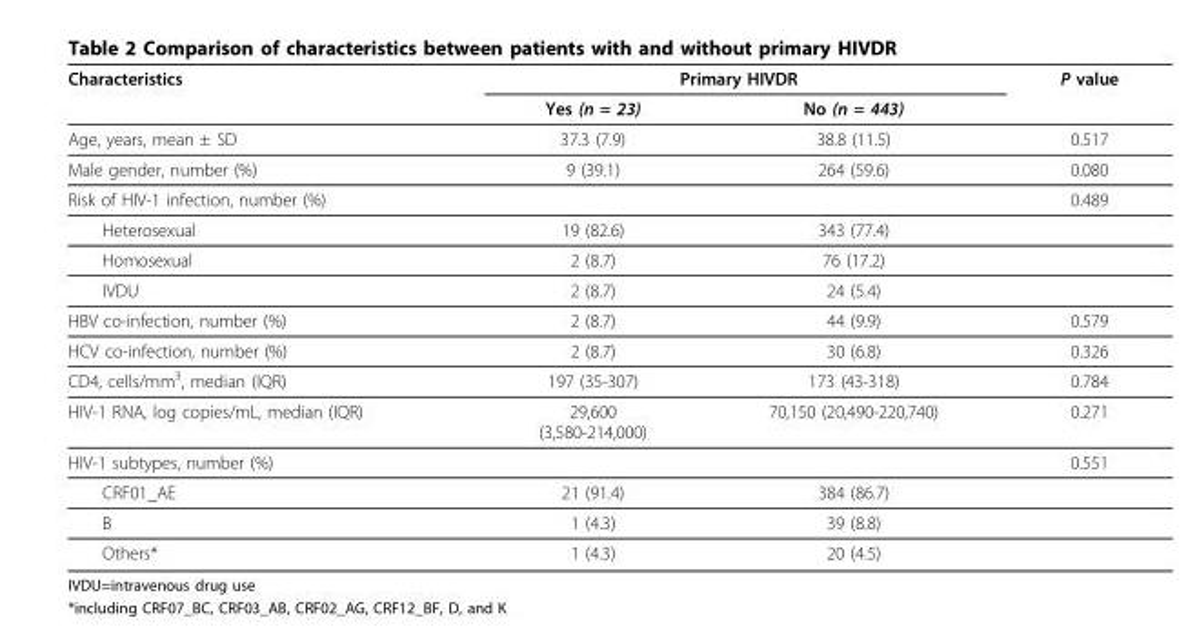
<table><thead><tr><td rowspan="2">Characteristics</td><td colspan="2">Primary HIVDR</td><td rowspan="2">P value</td></tr><tr><td>Yes (n = 23)</td><td>No (n = 443)</td></tr></thead><tbody><tr><td>Age, years, mean ± SD</td><td>37.3 (7.9)</td><td>38.8 (11.5)</td><td>0.517</td></tr><tr><td>Male gender, number (%)</td><td>9 (39.1)</td><td>264 (59.6)</td><td>0.080</td></tr><tr><td>Risk of HIV-1 infection, number (%)</td><td></td><td></td><td>0.489</td></tr><tr><td>Heterosexual</td><td>19 (82.6)</td><td>343 (77.4)</td><td></td></tr><tr><td>Homosexual</td><td>2 (8.7)</td><td>76 (17.2)</td><td></td></tr><tr><td>IVDU</td><td>2 (8.7)</td><td>24 (5.4)</td><td></td></tr><tr><td>HBV co-infection, number (%)</td><td>2 (8.7)</td><td>44 (9.9)</td><td>0.579</td></tr><tr><td>HCV co-infection, number (%)</td><td>2 (8.7)</td><td>30 (6.8)</td><td>0.326</td></tr><tr><td>CD4, cells/mm<sup>3</sup>, median (IQR)</td><td>197 (35-307)</td><td>173 (43-318)</td><td>0.784</td></tr><tr><td>HIV-1 RNA, log copies/mL, median (IQR)</td><td>29,600 (3,580-214,000)</td><td>70,150 (20,490-220,740)</td><td>0.271</td></tr><tr><td>HIV-1 subtypes, number (%)</td><td></td><td></td><td>0.551</td></tr><tr><td>CRF01_AE</td><td>21 (91.4)</td><td>384 (86.7)</td><td></td></tr><tr><td>B</td><td>1 (4.3)</td><td>39 (8.8)</td><td></td></tr><tr><td>Others*</td><td>1 (4.3)</td><td>20 (4.5)</td><td></td></tr></tbody></table>